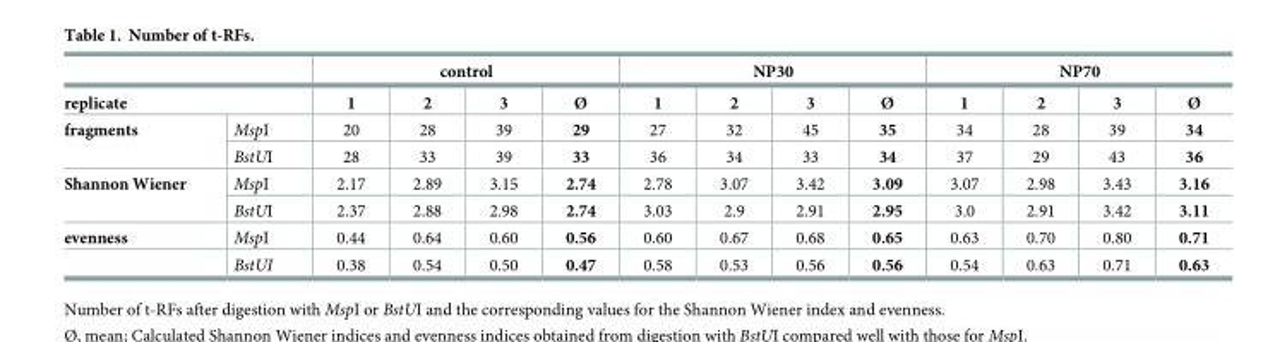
<table><thead><tr><td></td><td></td><td colspan="4">control</td><td colspan="4">NP30</td><td colspan="4">NP70</td></tr><tr><td colspan="2">replicate</td><td>1</td><td>2</td><td>3</td><td>Ø</td><td>1</td><td>2</td><td>3</td><td>Ø</td><td>1</td><td>2</td><td>3</td><td>Ø</td></tr></thead><tbody><tr><td rowspan="2">fragments</td><td>MspI</td><td>20</td><td>28</td><td>39</td><td>29</td><td>27</td><td>32</td><td>45</td><td>35</td><td>34</td><td>28</td><td>39</td><td>34</td></tr><tr><td>BstUI</td><td>28</td><td>33</td><td>39</td><td>33</td><td>36</td><td>34</td><td>33</td><td>34</td><td>37</td><td>29</td><td>43</td><td>36</td></tr><tr><td rowspan="2">Shannon Wiener</td><td>MspI</td><td>2.17</td><td>2.89</td><td>3.15</td><td>2.74</td><td>2.78</td><td>3.07</td><td>3.42</td><td>3.09</td><td>3.07</td><td>2.98</td><td>3.43</td><td>3.16</td></tr><tr><td>BstUI</td><td>2.37</td><td>2.88</td><td>2.98</td><td>2.74</td><td>3.03</td><td>2.9</td><td>2.91</td><td>2.95</td><td>3.0</td><td>2.91</td><td>3.42</td><td>3.11</td></tr><tr><td rowspan="2">evenness</td><td>MspI</td><td>0.44</td><td>0.64</td><td>0.60</td><td>0.56</td><td>0.60</td><td>0.67</td><td>0.68</td><td>0.65</td><td>0.63</td><td>0.70</td><td>0.80</td><td>0.71</td></tr><tr><td>BstUI</td><td>0.38</td><td>0.54</td><td>0.50</td><td>0.47</td><td>0.58</td><td>0.53</td><td>0.56</td><td>0.56</td><td>0.54</td><td>0.63</td><td>0.71</td><td>0.63</td></tr></tbody></table>